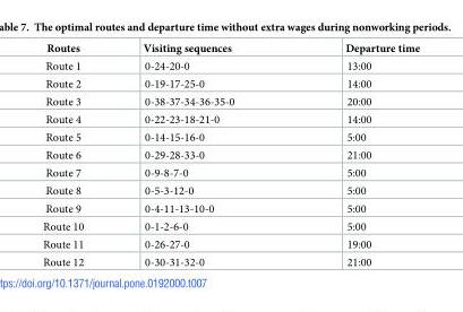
<table><thead><tr><td>Routes</td><td>Visiting sequences</td><td>Departure time</td></tr></thead><tbody><tr><td>Route 1</td><td>0-24-20-0</td><td>13:00</td></tr><tr><td>Route 2</td><td>0-19-17-25-0</td><td>14:00</td></tr><tr><td>Route 3</td><td>0-38-37-34-36-35-0</td><td>20:00</td></tr><tr><td>Route 4</td><td>0-22-23-18-21-0</td><td>14:00</td></tr><tr><td>Route 5</td><td>0-14-15-16-0</td><td>5:00</td></tr><tr><td>Route 6</td><td>0-29-28-33-0</td><td>21:00</td></tr><tr><td>Route 7</td><td>0-9-8-7-0</td><td>5:00</td></tr><tr><td>Route 8</td><td>0-5-3-12-0</td><td>5:00</td></tr><tr><td>Route 9</td><td>0-4-11-13-10-0</td><td>5:00</td></tr><tr><td>Route 10</td><td>0-1-2-6-0</td><td>5:00</td></tr><tr><td>Route 11</td><td>0-26-27-0</td><td>19:00</td></tr><tr><td>Route 12</td><td>0-30-31-32-0</td><td>21:00</td></tr></tbody></table>